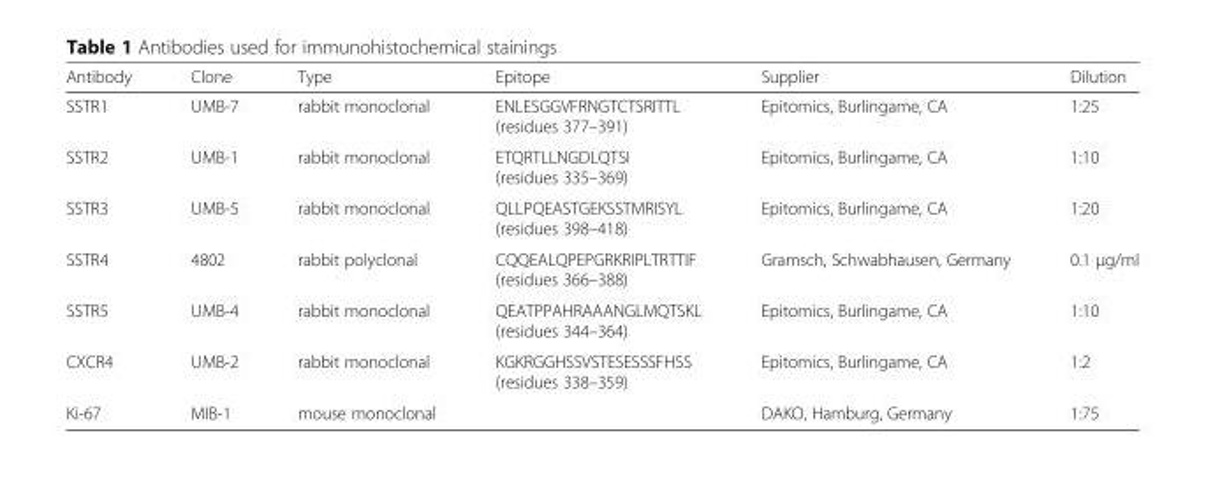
<table><thead><tr><td>Antibody</td><td>Clone</td><td>Type</td><td>Epitope</td><td>Supplier</td><td>Dilution</td></tr></thead><tbody><tr><td>SSTR1</td><td>UMB-7</td><td>rabbit monoclonal</td><td>ENLESGGVFRNGTCTSRITTL (residues 377–391)</td><td>Epitomics, Burlingame, CA</td><td>1:25</td></tr><tr><td>SSTR2</td><td>UMB-1</td><td>rabbit monoclonal</td><td>ETQRTLLNGDLQTSI (residues 335–369)</td><td>Epitomics, Burlingame, CA</td><td>1:10</td></tr><tr><td>SSTR3</td><td>UMB-5</td><td>rabbit monoclonal</td><td>QLLPQEASTGEKSSTMRISYL (residues 398–418)</td><td>Epitomics, Burlingame, CA</td><td>1:20</td></tr><tr><td>SSTR4</td><td>4802</td><td>rabbit polyclonal</td><td>CQQEALQPEPGRKRIPLTRTTIF (residues 366–388)</td><td>Gramsch, Schwabhausen, Germany</td><td>0.1 μg/ml</td></tr><tr><td>SSTR5</td><td>UMB-4</td><td>rabbit monoclonal</td><td>QEATPPAHRAAANGLMQTSKL (residues 344–364)</td><td>Epitomics, Burlingame, CA</td><td>1:10</td></tr><tr><td>CXCR4</td><td>UMB-2</td><td>rabbit monoclonal</td><td>KGKRGGHSSVSTESESSSFHSS (residues 338–359)</td><td>Epitomics, Burlingame, CA</td><td>1:2</td></tr><tr><td>Ki-67</td><td>MIB-1</td><td>mouse monoclonal</td><td></td><td>DAKO, Hamburg, Germany</td><td>1:75</td></tr></tbody></table>